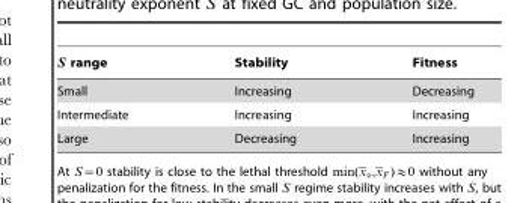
<table><thead><tr><td>S range</td><td>Stability</td><td>Fitness</td></tr></thead><tbody><tr><td>Small</td><td>Increasing</td><td>Decreasing</td></tr><tr><td>Intermediate</td><td>Increasing</td><td>Increasing</td></tr><tr><td>Large</td><td>Decreasing</td><td>Increasing</td></tr></tbody></table>